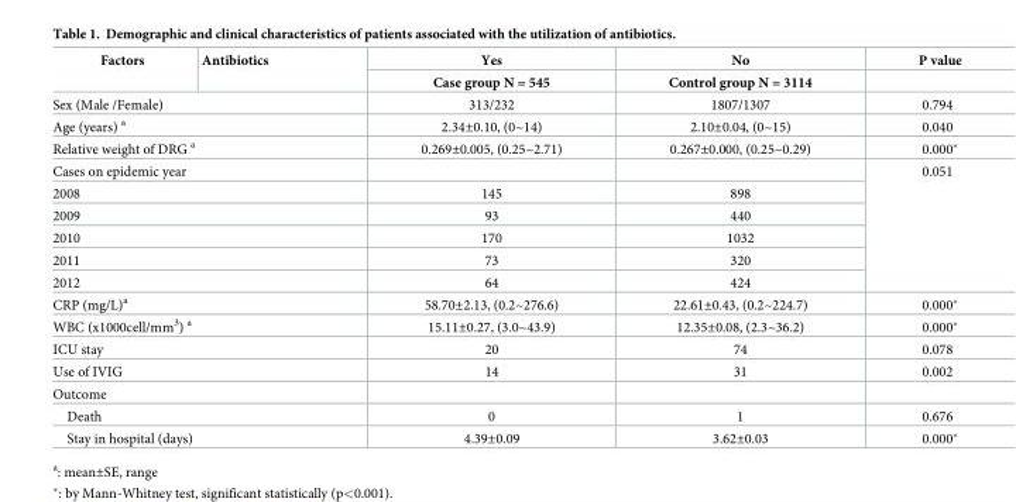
<table><thead><tr><td rowspan="2">Factors</td><td rowspan="2">Antibiotics</td><td rowspan="2">Yes Case group N = 545</td><td rowspan="2">No Control group N = 3114</td><td rowspan="2">P value</td></tr><tr></tr></thead><tbody><tr><td colspan="2">Sex (Male /Female)</td><td>313/232</td><td>1807/1307</td><td>0.794</td></tr><tr><td colspan="2">Age (years) <sup>a</sup></td><td>2.34±0.10, (0~14)</td><td>2.10±0.04, (0~15)</td><td>0.040</td></tr><tr><td colspan="2">Relative weight of DRG <sup>a</sup></td><td>0.269±0.005, (0.25~2.71)</td><td>0.267±0.000, (0.25~0.29)</td><td>0.000*</td></tr><tr><td colspan="4">Cases on epidemic year</td><td rowspan="6">0.051</td></tr><tr><td colspan="2">2008</td><td>145</td><td>898</td></tr><tr><td colspan="2">2009</td><td>93</td><td>440</td></tr><tr><td colspan="2">2010</td><td>170</td><td>1032</td></tr><tr><td colspan="2">2011</td><td>73</td><td>320</td></tr><tr><td colspan="2">2012</td><td>64</td><td>424</td></tr><tr><td colspan="2">CRP (mg/L)<sup>a</sup></td><td>58.70±2.13, (0.2~276.6)</td><td>22.61±0.43, (0.2~224.7)</td><td>0.000*</td></tr><tr><td colspan="2">WBC (x1000cell/mm<sup>3</sup>) <sup>a</sup></td><td>15.11±0.27, (3.0~43.9)</td><td>12.35±0.08, (2.3~36.2)</td><td>0.000*</td></tr><tr><td colspan="2">ICU stay</td><td>20</td><td>74</td><td>0.078</td></tr><tr><td colspan="2">Use of IVIG</td><td>14</td><td>31</td><td>0.002</td></tr><tr><td colspan="5">Outcome</td></tr><tr><td colspan="2">Death</td><td>0</td><td>1</td><td>0.676</td></tr><tr><td colspan="2">Stay in hospital (days)</td><td>4.39±0.09</td><td>3.62±0.03</td><td>0.000*</td></tr></tbody></table>